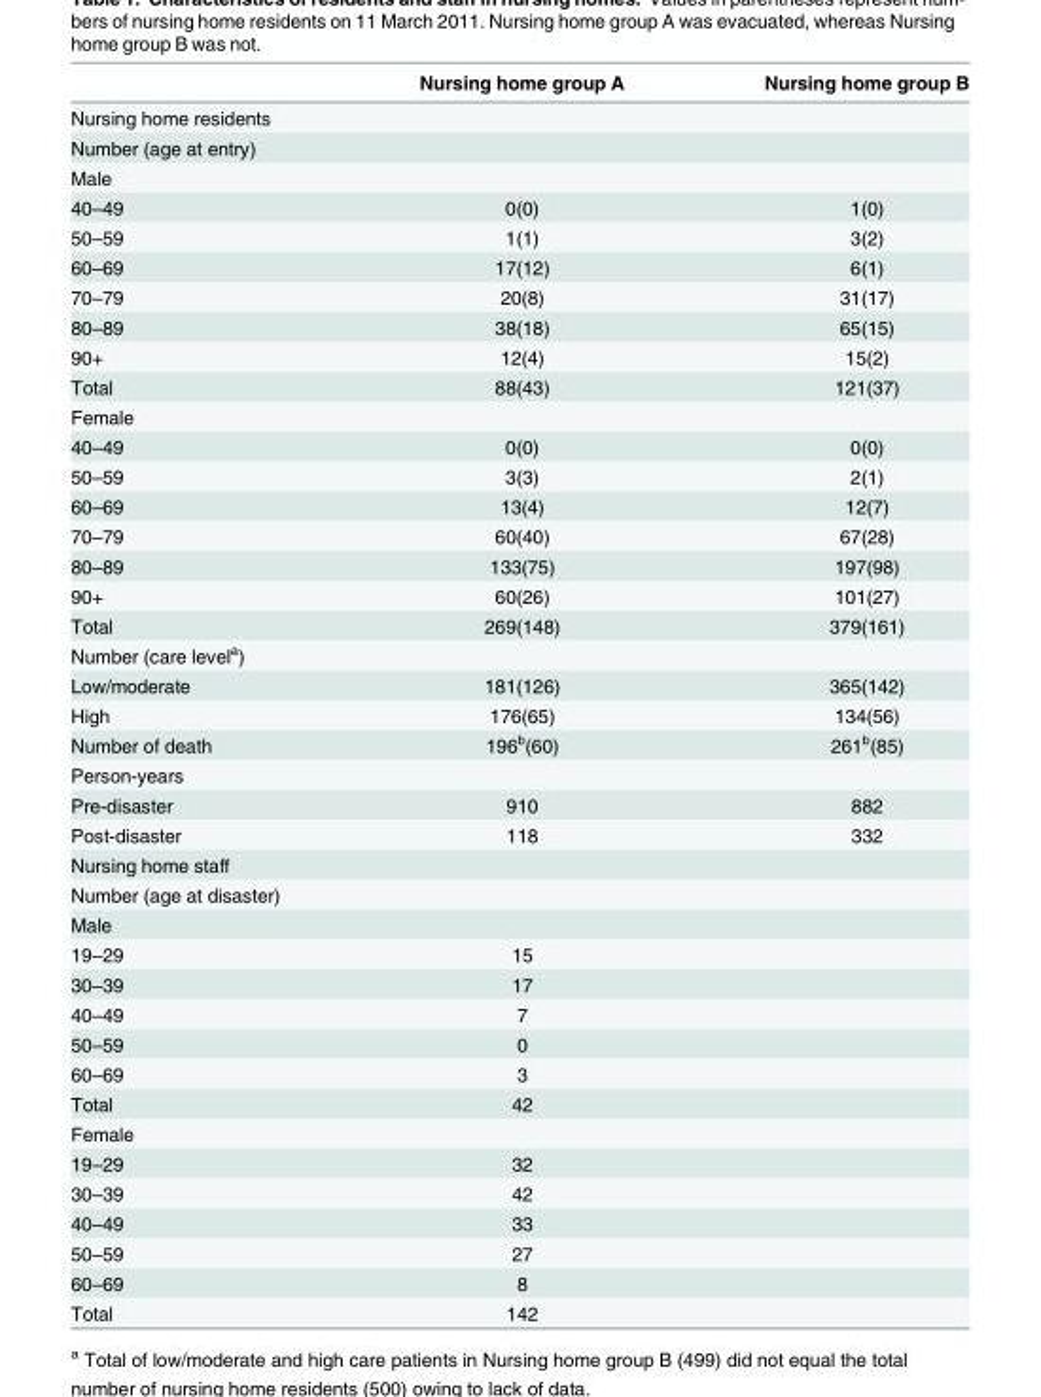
<table><thead><tr><td></td><td>Nursing home group A</td><td>Nursing home group B</td></tr></thead><tbody><tr><td colspan="3">Nursing home residents</td></tr><tr><td colspan="3">Number (age at entry)</td></tr><tr><td colspan="3">Male</td></tr><tr><td>40–49</td><td>0(0)</td><td>1(0)</td></tr><tr><td>50–59</td><td>1(1)</td><td>3(2)</td></tr><tr><td>60–69</td><td>17(12)</td><td>6(1)</td></tr><tr><td>70–79</td><td>20(8)</td><td>31(17)</td></tr><tr><td>80–89</td><td>38(18)</td><td>65(15)</td></tr><tr><td>90+</td><td>12(4)</td><td>15(2)</td></tr><tr><td>Total</td><td>88(43)</td><td>121(37)</td></tr><tr><td colspan="3">Female</td></tr><tr><td>40–49</td><td>0(0)</td><td>0(0)</td></tr><tr><td>50–59</td><td>3(3)</td><td>2(1)</td></tr><tr><td>60–69</td><td>13(4)</td><td>12(7)</td></tr><tr><td>70–79</td><td>60(40)</td><td>67(28)</td></tr><tr><td>80–89</td><td>133(75)</td><td>197(98)</td></tr><tr><td>90+</td><td>60(26)</td><td>101(27)</td></tr><tr><td>Total</td><td>269(148)</td><td>379(161)</td></tr><tr><td colspan="3">Number (care level<sup>a</sup>)</td></tr><tr><td>Low/moderate</td><td>181(126)</td><td>365(142)</td></tr><tr><td>High</td><td>176(65)</td><td>134(56)</td></tr><tr><td>Number of death</td><td>196<sup>b</sup>(60)</td><td>261<sup>b</sup>(85)</td></tr><tr><td colspan="3">Person-years</td></tr><tr><td>Pre-disaster</td><td>910</td><td>882</td></tr><tr><td>Post-disaster</td><td>118</td><td>332</td></tr><tr><td colspan="3">Nursing home staff</td></tr><tr><td colspan="3">Number (age at disaster)</td></tr><tr><td colspan="3">Male</td></tr><tr><td>19–29</td><td>15</td><td></td></tr><tr><td>30–39</td><td>17</td><td></td></tr><tr><td>40–49</td><td>7</td><td></td></tr><tr><td>50–59</td><td>0</td><td></td></tr><tr><td>60–69</td><td>3</td><td></td></tr><tr><td>Total</td><td>42</td><td></td></tr><tr><td colspan="3">Female</td></tr><tr><td>19–29</td><td>32</td><td></td></tr><tr><td>30–39</td><td>42</td><td></td></tr><tr><td>40–49</td><td>33</td><td></td></tr><tr><td>50–59</td><td>27</td><td></td></tr><tr><td>60–69</td><td>8</td><td></td></tr><tr><td>Total</td><td>142</td><td></td></tr></tbody></table>